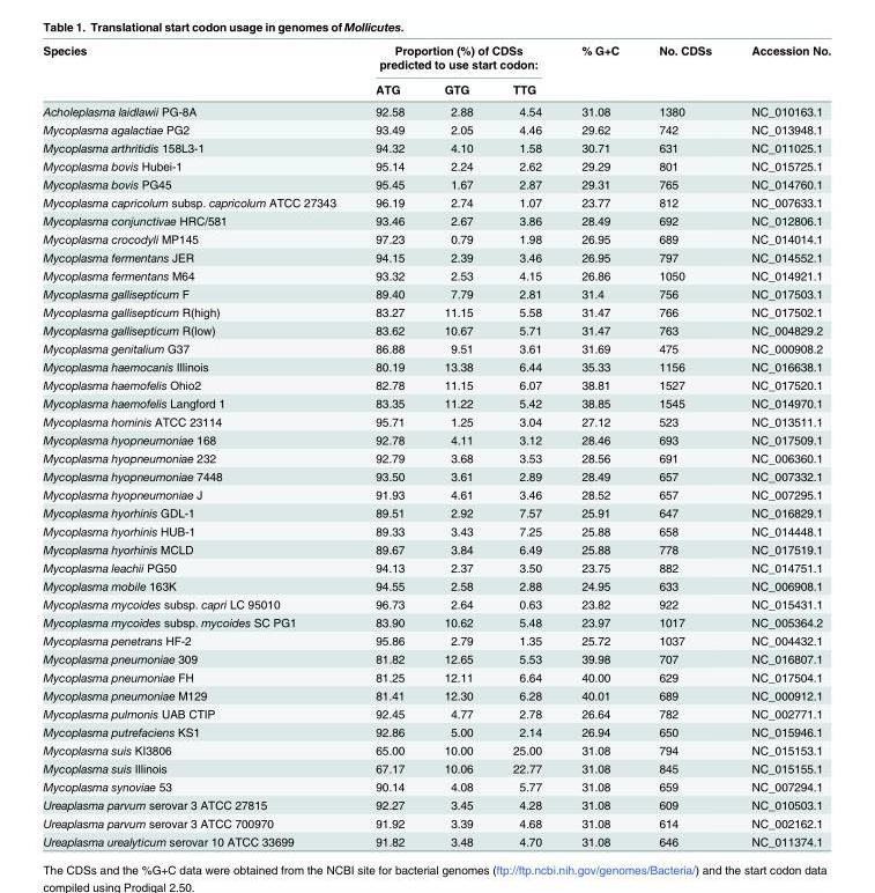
<table><thead><tr><td rowspan="2">Species</td><td colspan="3">Proportion (%) of CDSs predicted to use start codon:</td><td rowspan="2">% G+C</td><td rowspan="2">No. CDSs</td><td rowspan="2">Accession No.</td></tr><tr><td>ATG</td><td>GTG</td><td>TTG</td></tr></thead><tbody><tr><td>Acholeplasma laidlawii PG-8A</td><td>92.58</td><td>2.88</td><td>4.54</td><td>31.08</td><td>1380</td><td>NC_010163.1</td></tr><tr><td>Mycoplasma agalactiae PG2</td><td>93.49</td><td>2.05</td><td>4.46</td><td>29.62</td><td>742</td><td>NC_013948.1</td></tr><tr><td>Mycoplasma arthritidis 158L3-1</td><td>94.32</td><td>4.10</td><td>1.58</td><td>30.71</td><td>631</td><td>NC_011025.1</td></tr><tr><td>Mycoplasma bovis Hubei-1</td><td>95.14</td><td>2.24</td><td>2.62</td><td>29.29</td><td>801</td><td>NC_015725.1</td></tr><tr><td>Mycoplasma bovis PG45</td><td>95.45</td><td>1.67</td><td>2.87</td><td>29.31</td><td>765</td><td>NC_014760.1</td></tr><tr><td>Mycoplasma capricolum subsp. capricolum ATCC 27343</td><td>96.19</td><td>2.74</td><td>1.07</td><td>23.77</td><td>812</td><td>NC_007633.1</td></tr><tr><td>Mycoplasma conjunctivae HRC/581</td><td>93.46</td><td>2.67</td><td>3.86</td><td>28.49</td><td>692</td><td>NC_012806.1</td></tr><tr><td>Mycoplasma crocodyli MP145</td><td>97.23</td><td>0.79</td><td>1.98</td><td>26.95</td><td>689</td><td>NC_014014.1</td></tr><tr><td>Mycoplasma fermentans JER</td><td>94.15</td><td>2.39</td><td>3.46</td><td>26.95</td><td>797</td><td>NC_014552.1</td></tr><tr><td>Mycoplasma fermentans M64</td><td>93.32</td><td>2.53</td><td>4.15</td><td>26.86</td><td>1050</td><td>NC_014921.1</td></tr><tr><td>Mycoplasma gallisepticum F</td><td>89.40</td><td>7.79</td><td>2.81</td><td>31.4</td><td>756</td><td>NC_017503.1</td></tr><tr><td>Mycoplasma gallisepticum R(high)</td><td>83.27</td><td>11.15</td><td>5.58</td><td>31.47</td><td>766</td><td>NC_017502.1</td></tr><tr><td>Mycoplasma gallisepticum R(low)</td><td>83.62</td><td>10.67</td><td>5.71</td><td>31.47</td><td>763</td><td>NC_004829.2</td></tr><tr><td>Mycoplasma genitalium G37</td><td>86.88</td><td>9.51</td><td>3.61</td><td>31.69</td><td>475</td><td>NC_000908.2</td></tr><tr><td>Mycoplasma haemocanis Illinois</td><td>80.19</td><td>13.38</td><td>6.44</td><td>35.33</td><td>1156</td><td>NC_016638.1</td></tr><tr><td>Mycoplasma haemofelis Ohio2</td><td>82.78</td><td>11.15</td><td>6.07</td><td>38.81</td><td>1527</td><td>NC_017520.1</td></tr><tr><td>Mycoplasma haemofelis Langford 1</td><td>83.35</td><td>11.22</td><td>5.42</td><td>38.85</td><td>1545</td><td>NC_014970.1</td></tr><tr><td>Mycoplasma hominis ATCC 23114</td><td>95.71</td><td>1.25</td><td>3.04</td><td>27.12</td><td>523</td><td>NC_013511.1</td></tr><tr><td>Mycoplasma hyopneumoniae 168</td><td>92.78</td><td>4.11</td><td>3.12</td><td>28.46</td><td>693</td><td>NC_017509.1</td></tr><tr><td>Mycoplasma hyopneumoniae 232</td><td>92.79</td><td>3.68</td><td>3.53</td><td>28.56</td><td>691</td><td>NC_006360.1</td></tr><tr><td>Mycoplasma hyopneumoniae 7448</td><td>93.50</td><td>3.61</td><td>2.89</td><td>28.49</td><td>657</td><td>NC_007332.1</td></tr><tr><td>Mycoplasma hyopneumoniae J</td><td>91.93</td><td>4.61</td><td>3.46</td><td>28.52</td><td>657</td><td>NC_007295.1</td></tr><tr><td>Mycoplasma hyorhinis GDL-1</td><td>89.51</td><td>2.92</td><td>7.57</td><td>25.91</td><td>647</td><td>NC_016829.1</td></tr><tr><td>Mycoplasma hyorhinis HUB-1</td><td>89.33</td><td>3.43</td><td>7.25</td><td>25.88</td><td>658</td><td>NC_014448.1</td></tr><tr><td>Mycoplasma hyorhinis MCLD</td><td>89.67</td><td>3.84</td><td>6.49</td><td>25.88</td><td>778</td><td>NC_017519.1</td></tr><tr><td>Mycoplasma leachii PG50</td><td>94.13</td><td>2.37</td><td>3.50</td><td>23.75</td><td>882</td><td>NC_014751.1</td></tr><tr><td>Mycoplasma mobile 163K</td><td>94.55</td><td>2.58</td><td>2.88</td><td>24.95</td><td>633</td><td>NC_006908.1</td></tr><tr><td>Mycoplasma mycoides subsp. capri LC 95010</td><td>96.73</td><td>2.64</td><td>0.63</td><td>23.82</td><td>922</td><td>NC_015431.1</td></tr><tr><td>Mycoplasma mycoides subsp. mycoides SC PG1</td><td>83.90</td><td>10.62</td><td>5.48</td><td>23.97</td><td>1017</td><td>NC_005364.2</td></tr><tr><td>Mycoplasma penetrans HF-2</td><td>95.86</td><td>2.79</td><td>1.35</td><td>25.72</td><td>1037</td><td>NC_004432.1</td></tr><tr><td>Mycoplasma pneumoniae 309</td><td>81.82</td><td>12.65</td><td>5.53</td><td>39.98</td><td>707</td><td>NC_016807.1</td></tr><tr><td>Mycoplasma pneumoniae FH</td><td>81.25</td><td>12.11</td><td>6.64</td><td>40.00</td><td>629</td><td>NC_017504.1</td></tr><tr><td>Mycoplasma pneumoniae M129</td><td>81.41</td><td>12.30</td><td>6.28</td><td>40.01</td><td>689</td><td>NC_000912.1</td></tr><tr><td>Mycoplasma pulmonis UAB CTIP</td><td>92.45</td><td>4.77</td><td>2.78</td><td>26.64</td><td>782</td><td>NC_002771.1</td></tr><tr><td>Mycoplasma putrefaciens KS1</td><td>92.86</td><td>5.00</td><td>2.14</td><td>26.94</td><td>650</td><td>NC_015946.1</td></tr><tr><td>Mycoplasma suis KI3806</td><td>65.00</td><td>10.00</td><td>25.00</td><td>31.08</td><td>794</td><td>NC_015153.1</td></tr><tr><td>Mycoplasma suis Illinois</td><td>67.17</td><td>10.06</td><td>22.77</td><td>31.08</td><td>845</td><td>NC_015155.1</td></tr><tr><td>Mycoplasma synoviae 53</td><td>90.14</td><td>4.08</td><td>5.77</td><td>31.08</td><td>659</td><td>NC_007294.1</td></tr><tr><td>Ureaplasma parvum serovar 3 ATCC 27815</td><td>92.27</td><td>3.45</td><td>4.28</td><td>31.08</td><td>609</td><td>NC_010503.1</td></tr><tr><td>Ureaplasma parvum serovar 3 ATCC 700970</td><td>91.92</td><td>3.39</td><td>4.68</td><td>31.08</td><td>614</td><td>NC_002162.1</td></tr><tr><td>Ureaplasma urealyticum serovar 10 ATCC 33699</td><td>91.82</td><td>3.48</td><td>4.70</td><td>31.08</td><td>646</td><td>NC_011374.1</td></tr></tbody></table>